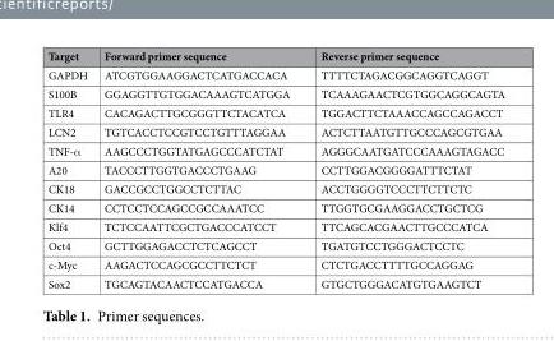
<table><thead><tr><td>Target</td><td>Forward primer sequence</td><td>Reverse primer sequence</td></tr></thead><tbody><tr><td>GAPDH</td><td>ATCGTGGAAGGACTCATGACCACA</td><td>TTTTCTAGACGGCAGGTCAGGT</td></tr><tr><td>S100B</td><td>GGAGGTTGTGGACAAAGTCATGGA</td><td>TCAAAGAACTCGTGGCAGGCAGTA</td></tr><tr><td>TLR4</td><td>CACAGACTTGCGGGTTCTACATCA</td><td>TGGACTTCTAAACCAGCCAGACCT</td></tr><tr><td>LCN2</td><td>TGTCACCTCCGTCCTGTTTAGGAA</td><td>ACTCTTAATGTTGCCCAGCGTGAA</td></tr><tr><td>TNF-α</td><td>AAGCCCTGGTATGAGCCCATCTAT</td><td>AGGGCAATGATCCCAAAGTAGACC</td></tr><tr><td>A20</td><td>TACCCTTGGTGACCCTGAAG</td><td>CCTTGGACGGGGATTTCTAT</td></tr><tr><td>CK18</td><td>GACCGCCTGGCCTCTTAC</td><td>ACCTGGGGTCCCTTCTTCTC</td></tr><tr><td>CK14</td><td>CCTCCTCCAGCCGCCAAATCC</td><td>TTGGTGCGAAGGACCTGCTCG</td></tr><tr><td>Klf4</td><td>TCTCCAATTCGCTGACCCATCCT</td><td>TTCAGCACGAACTTGCCCATCA</td></tr><tr><td>Oct4</td><td>GCTTGGAGACCTCTCAGCCT</td><td>TGATGTCCTGGGACTCCTC</td></tr><tr><td>c-Myc</td><td>AAGACTCCAGCGCCTTCTCT</td><td>CTCTGACCTTTTGCCAGGAG</td></tr><tr><td>Sox2</td><td>TGCAGTACAACTCCATGACCA</td><td>GTGCTGGGACATGTGAAGTCT</td></tr></tbody></table>